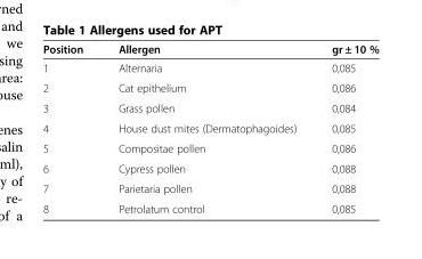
<table><thead><tr><td>Position</td><td>Allergen</td><td>gr ± 10 %</td></tr></thead><tbody><tr><td>1</td><td>Alternaria</td><td>0,085</td></tr><tr><td>2</td><td>Cat epithelium</td><td>0,086</td></tr><tr><td>3</td><td>Grass pollen</td><td>0,084</td></tr><tr><td>4</td><td>House dust mites (Dermatophagoides)</td><td>0,085</td></tr><tr><td>5</td><td>Compositae pollen</td><td>0,086</td></tr><tr><td>6</td><td>Cypress pollen</td><td>0,088</td></tr><tr><td>7</td><td>Parietaria pollen</td><td>0,088</td></tr><tr><td>8</td><td>Petrolatum control</td><td>0,085</td></tr></tbody></table>